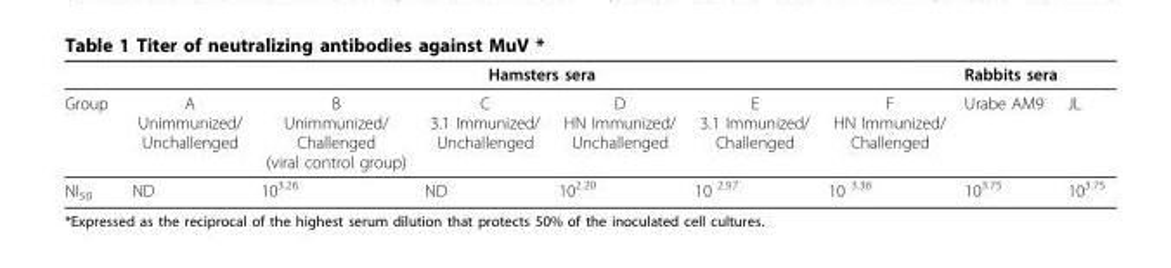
<table><thead><tr><td rowspan="2">Group</td><td colspan="6">Hamsters sera</td><td colspan="2">Rabbits sera</td></tr><tr><td>A Unimmunized/ Unchallenged</td><td>B Unimmunized/ Challenged (viral control group)</td><td>C 3.1 Immunized/ Unchallenged</td><td>D HN Immunized/ Unchallenged</td><td>E 3.1 Immunized/ Challenged</td><td>F HN Immunized/ Challenged</td><td>Urabe AM9</td><td>JL</td></tr></thead><tbody><tr><td>NI<sub>50</sub></td><td>ND</td><td>10<sup>3.26</sup></td><td>ND</td><td>10<sup>2.20</sup></td><td>10 <sup>2.97</sup></td><td>10 <sup>3.36</sup></td><td>10<sup>3.75</sup></td><td>10<sup>3.75</sup></td></tr></tbody></table>